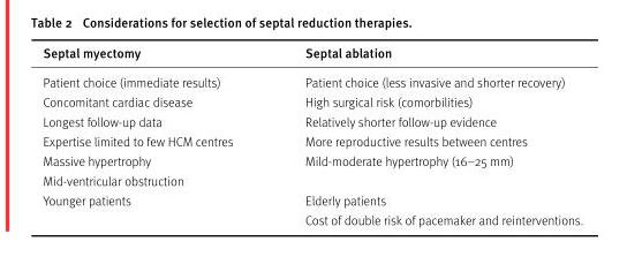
<table><thead><tr><td>Septal myectomy</td><td>Septal ablation</td></tr></thead><tbody><tr><td>Patient choice (immediate results)</td><td>Patient choice (less invasive and shorter recovery)</td></tr><tr><td>Concomitant cardiac disease</td><td>High surgical risk (comorbilities)</td></tr><tr><td>Longest follow-up data</td><td>Relatively shorter follow-up evidence</td></tr><tr><td>Expertise limited to few HCM centres</td><td>More reproductive results between centres</td></tr><tr><td>Massive hypertrophy</td><td>Mild-moderate hypertrophy (16–25 mm)</td></tr><tr><td colspan="2">Mid-ventricular obstruction</td></tr><tr><td rowspan="2">Younger patients</td><td>Elderly patients</td></tr><tr><td>Cost of double risk of pacemaker and reinterventions.</td></tr></tbody></table>